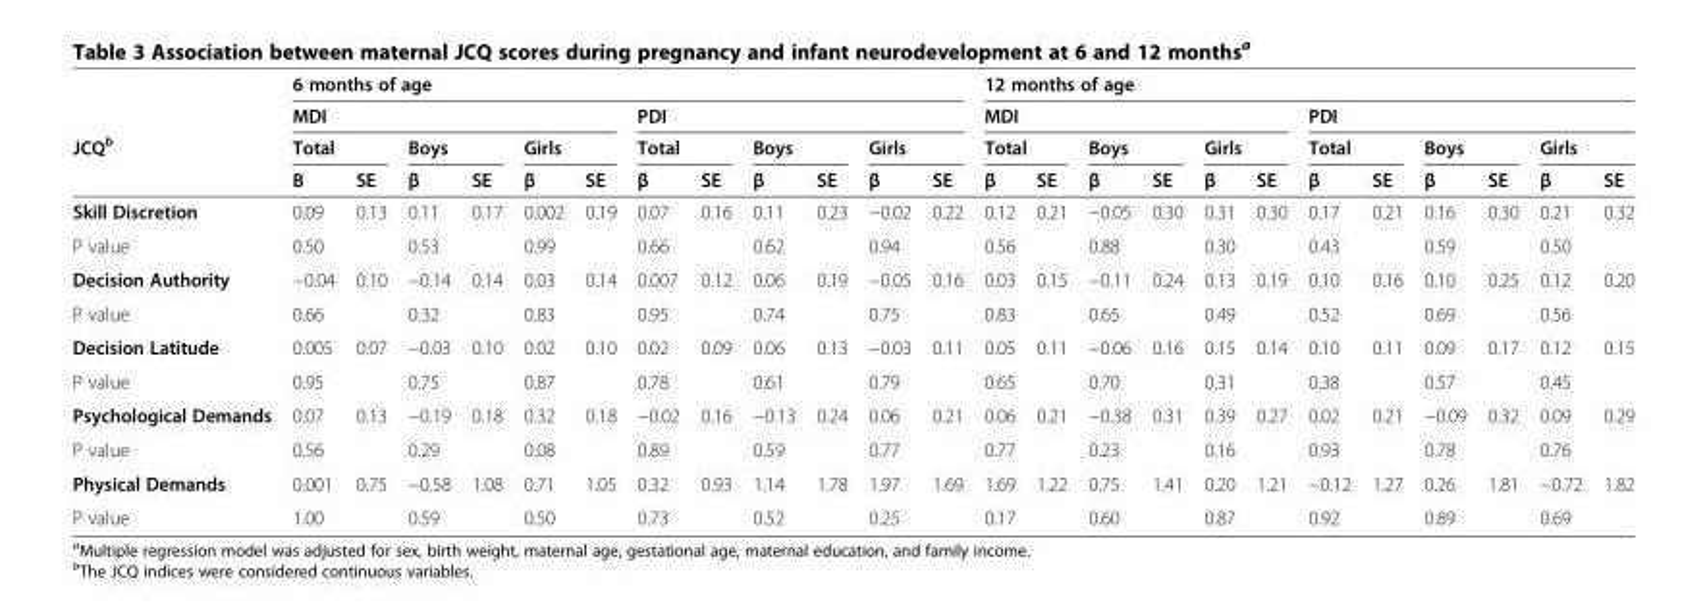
<table><thead><tr><td rowspan="4">JCQ<sup>b</sup></td><td colspan="12">6 months of age</td><td colspan="12">12 months of age</td></tr><tr><td colspan="6">MDI</td><td colspan="6">PDI</td><td colspan="6">MDI</td><td colspan="6">PDI</td></tr><tr><td colspan="2">Total</td><td colspan="2">Boys</td><td colspan="2">Girls</td><td colspan="2">Total</td><td colspan="2">Boys</td><td colspan="2">Girls</td><td colspan="2">Total</td><td colspan="2">Boys</td><td colspan="2">Girls</td><td colspan="2">Total</td><td colspan="2">Boys</td><td colspan="2">Girls</td></tr><tr><td>Β</td><td>SE</td><td>β</td><td>SE</td><td>β</td><td>SE</td><td>β</td><td>SE</td><td>β</td><td>SE</td><td>β</td><td>SE</td><td>β</td><td>SE</td><td>β</td><td>SE</td><td>β</td><td>SE</td><td>β</td><td>SE</td><td>β</td><td>SE</td><td>β</td><td>SE</td></tr></thead><tbody><tr><td>Skill Discretion</td><td>0.09</td><td>0.13</td><td>0.11</td><td>0.17</td><td>0.002</td><td>0.19</td><td>0.07</td><td>0.16</td><td>0.11</td><td>0.23</td><td>−0.02</td><td>0.22</td><td>0.12</td><td>0.21</td><td>−0.05</td><td>0.30</td><td>0.31</td><td>0.30</td><td>0.17</td><td>0.21</td><td>0.16</td><td>0.30</td><td>0.21</td><td>0.32</td></tr><tr><td>P value</td><td>0.50</td><td></td><td>0.53</td><td></td><td>0.99</td><td></td><td>0.66</td><td></td><td>0.62</td><td></td><td>0.94</td><td></td><td>0.56</td><td></td><td>0.88</td><td></td><td>0.30</td><td></td><td>0.43</td><td></td><td>0.59</td><td></td><td>0.50</td><td></td></tr><tr><td>Decision Authority</td><td>−0.04</td><td>0.10</td><td>−0.14</td><td>0.14</td><td>0.03</td><td>0.14</td><td>0.007</td><td>0.12</td><td>0.06</td><td>0.19</td><td>−0.05</td><td>0.16</td><td>0.03</td><td>0.15</td><td>−0.11</td><td>0.24</td><td>0.13</td><td>0.19</td><td>0.10</td><td>0.16</td><td>0.10</td><td>0.25</td><td>0.12</td><td>0.20</td></tr><tr><td>P value</td><td>0.66</td><td></td><td>0.32</td><td></td><td>0.83</td><td></td><td>0.95</td><td></td><td>0.74</td><td></td><td>0.75</td><td></td><td>0.83</td><td></td><td>0.65</td><td></td><td>0.49</td><td></td><td>0.52</td><td></td><td>0.69</td><td></td><td>0.56</td><td></td></tr><tr><td>Decision Latitude</td><td>0.005</td><td>0.07</td><td>−0.03</td><td>0.10</td><td>0.02</td><td>0.10</td><td>0.02</td><td>0.09</td><td>0.06</td><td>0.13</td><td>−0.03</td><td>0.11</td><td>0.05</td><td>0.11</td><td>−0.06</td><td>0.16</td><td>0.15</td><td>0.14</td><td>0.10</td><td>0.11</td><td>0.09</td><td>0.17</td><td>0.12</td><td>0.15</td></tr><tr><td>P value</td><td>0.95</td><td></td><td>0.75</td><td></td><td>0.87</td><td></td><td>0.78</td><td></td><td>0.61</td><td></td><td>0.79</td><td></td><td>0.65</td><td></td><td>0.70</td><td></td><td>0.31</td><td></td><td>0.38</td><td></td><td>0.57</td><td></td><td>0.45</td><td></td></tr><tr><td>Psychological Demands</td><td>0.07</td><td>0.13</td><td>−0.19</td><td>0.18</td><td>0.32</td><td>0.18</td><td>−0.02</td><td>0.16</td><td>−0.13</td><td>0.24</td><td>0.06</td><td>0.21</td><td>0.06</td><td>0.21</td><td>−0.38</td><td>0.31</td><td>0.39</td><td>0.27</td><td>0.02</td><td>0.21</td><td>−0.09</td><td>0.32</td><td>0.09</td><td>0.29</td></tr><tr><td>P value</td><td>0.56</td><td></td><td>0.29</td><td></td><td>0.08</td><td></td><td>0.89</td><td></td><td>0.59</td><td></td><td>0.77</td><td></td><td>0.77</td><td></td><td>0.23</td><td></td><td>0.16</td><td></td><td>0.93</td><td></td><td>0.78</td><td></td><td>0.76</td><td></td></tr><tr><td>Physical Demands</td><td>0.001</td><td>0.75</td><td>−0.58</td><td>1.08</td><td>0.71</td><td>1.05</td><td>0.32</td><td>0.93</td><td>1.14</td><td>1.78</td><td>1.97</td><td>1.69</td><td>1.69</td><td>1.22</td><td>0.75</td><td>1.41</td><td>0.20</td><td>1.21</td><td>−0.12</td><td>1.27</td><td>0.26</td><td>1.81</td><td>−0.72</td><td>1.82</td></tr><tr><td>P value</td><td>1.00</td><td></td><td>0.59</td><td></td><td>0.50</td><td></td><td>0.73</td><td></td><td>0.52</td><td></td><td>0.25</td><td></td><td>0.17</td><td></td><td>0.60</td><td></td><td>0.87</td><td></td><td>0.92</td><td></td><td>0.89</td><td></td><td>0.69</td><td></td></tr></tbody></table>